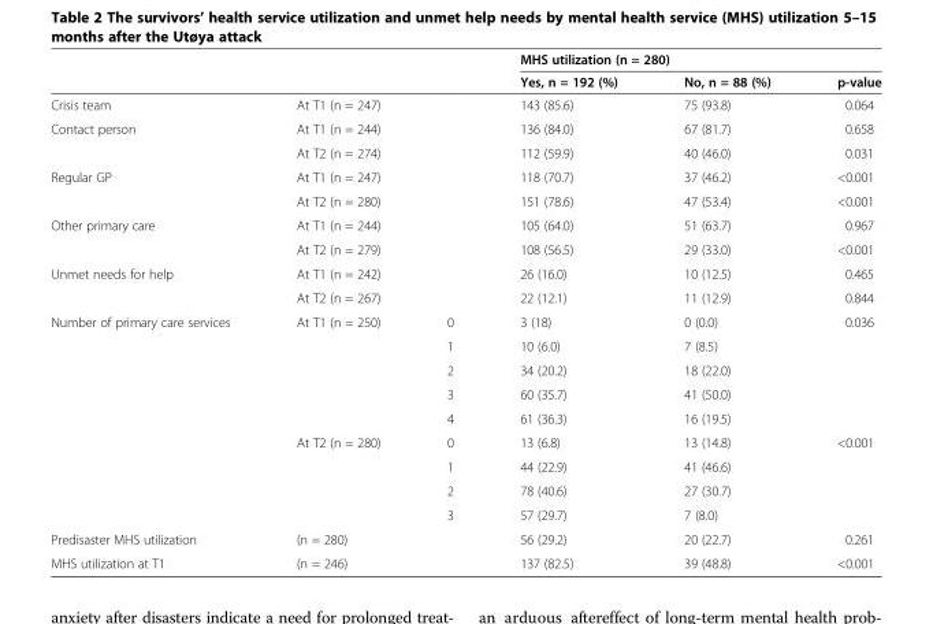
<table><thead><tr><td rowspan="2"></td><td rowspan="2"></td><td rowspan="2"></td><td colspan="3">MHS utilization (n = 280)</td></tr><tr><td>Yes, n = 192 (%)</td><td>No, n = 88 (%)</td><td>p-value</td></tr></thead><tbody><tr><td>Crisis team</td><td>At T1 (n = 247)</td><td></td><td>143 (85.6)</td><td>75 (93.8)</td><td>0.064</td></tr><tr><td rowspan="2">Contact person</td><td>At T1 (n = 244)</td><td></td><td>136 (84.0)</td><td>67 (81.7)</td><td>0.658</td></tr><tr><td>At T2 (n = 274)</td><td></td><td>112 (59.9)</td><td>40 (46.0)</td><td>0.031</td></tr><tr><td rowspan="2">Regular GP</td><td>At T1 (n = 247)</td><td></td><td>118 (70.7)</td><td>37 (46.2)</td><td>&lt;0.001</td></tr><tr><td>At T2 (n = 280)</td><td></td><td>151 (78.6)</td><td>47 (53.4)</td><td>&lt;0.001</td></tr><tr><td rowspan="2">Other primary care</td><td>At T1 (n = 244)</td><td></td><td>105 (64.0)</td><td>51 (63.7)</td><td>0.967</td></tr><tr><td>At T2 (n = 279)</td><td></td><td>108 (56.5)</td><td>29 (33.0)</td><td>&lt;0.001</td></tr><tr><td rowspan="2">Unmet needs for help</td><td>At T1 (n = 242)</td><td></td><td>26 (16.0)</td><td>10 (12.5)</td><td>0.465</td></tr><tr><td>At T2 (n = 267)</td><td></td><td>22 (12.1)</td><td>11 (12.9)</td><td>0.844</td></tr><tr><td rowspan="9">Number of primary care services</td><td>At T1 (n = 250)</td><td>0</td><td>3 (18)</td><td>0 (0.0)</td><td rowspan="5">0.036</td></tr><tr><td></td><td>1</td><td>10 (6.0)</td><td>7 (8.5)</td></tr><tr><td></td><td>2</td><td>34 (20.2)</td><td>18 (22.0)</td></tr><tr><td></td><td>3</td><td>60 (35.7)</td><td>41 (50.0)</td></tr><tr><td></td><td>4</td><td>61 (36.3)</td><td>16 (19.5)</td></tr><tr><td>At T2 (n = 280)</td><td>0</td><td>13 (6.8)</td><td>13 (14.8)</td><td rowspan="4">&lt;0.001</td></tr><tr><td></td><td>1</td><td>44 (22.9)</td><td>41 (46.6)</td></tr><tr><td></td><td>2</td><td>78 (40.6)</td><td>27 (30.7)</td></tr><tr><td></td><td>3</td><td>57 (29.7)</td><td>7 (8.0)</td></tr><tr><td>Predisaster MHS utilization</td><td>(n = 280)</td><td></td><td>56 (29.2)</td><td>20 (22.7)</td><td>0.261</td></tr><tr><td>MHS utilization at T1</td><td>(n = 246)</td><td></td><td>137 (82.5)</td><td>39 (48.8)</td><td>&lt;0.001</td></tr></tbody></table>